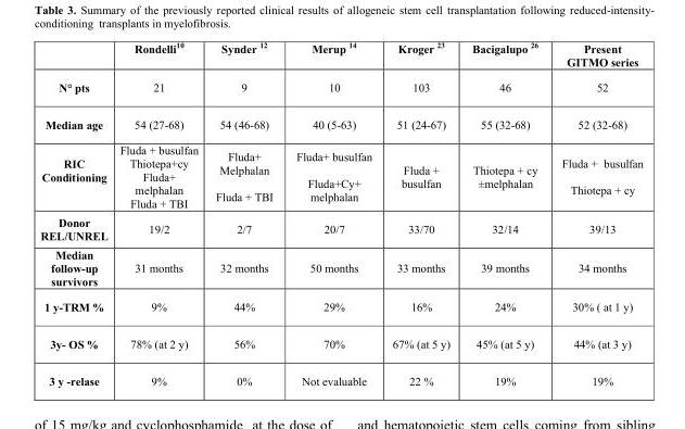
<table><thead><tr><td></td><td>Rondelli<sup>10</sup></td><td>Synder 12</td><td>Merup 14</td><td>Kroger 23</td><td>Bacigalupo 26</td><td>Present GITMO series</td></tr></thead><tbody><tr><td>N° pts</td><td>21</td><td>9</td><td>10</td><td>103</td><td>46</td><td>52</td></tr><tr><td>Median age</td><td>54 (27-68)</td><td>54 (46-68)</td><td>40 (5-63)</td><td>51 (24-67)</td><td>55 (32-68)</td><td>52 (32-68)</td></tr><tr><td>RIC Conditioning</td><td>Fluda + busulfan Thiotepa+cy Fluda+ melphalan Fluda + TBI</td><td>Fluda+ Melphalan Fluda + TBI</td><td>Fluda+ busulfan Fluda+Cy+ melphalan</td><td>Fluda + busulfan</td><td>Thiotepa + cy ±melphalan</td><td>Fluda + busulfan Thiotepa + cy</td></tr><tr><td>Donor REL/UNREL</td><td>19/2</td><td>2/7</td><td>20/7</td><td>33/70</td><td>32/14</td><td>39/13</td></tr><tr><td>Median follow-up survivors</td><td>31 months</td><td>32 months</td><td>50 months</td><td>33 months</td><td>39 months</td><td>34 months</td></tr><tr><td>1 y-TRM %</td><td>9%</td><td>44%</td><td>29%</td><td>16%</td><td>24%</td><td>30% ( at 1 y)</td></tr><tr><td>3y- OS %</td><td>78% (at 2 y)</td><td>56%</td><td>70%</td><td>67% (at 5 y)</td><td>45% (at 5 y)</td><td>44% (at 3 y)</td></tr><tr><td>3 y -relase</td><td>9%</td><td>0%</td><td>Not evaluable</td><td>22 %</td><td>19%</td><td>19%</td></tr></tbody></table>